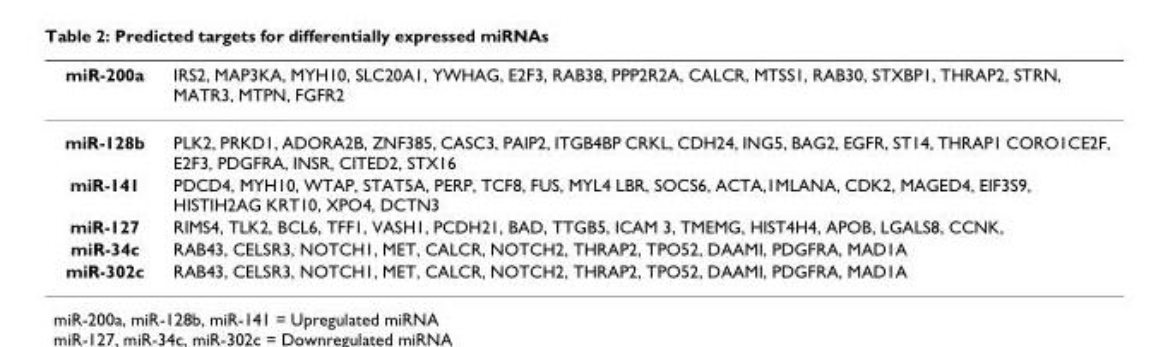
<table><thead><tr><td>miR-200a</td><td>IRS2, MAP3KA, MYH10, SLC20A1, YWHAG, E2F3, RAB38, PPP2R2A, CALCR, MTSS1, RAB30, STXBP1, THRAP2, STRN, MATR3, MTPN, FGFR2</td></tr></thead><tbody><tr><td>miR-128b</td><td>PLK2, PRKD1, ADORA2B, ZNF385, CASC3, PAIP2, ITGB4BP CRKL, CDH24, ING5, BAG2, EGFR, ST14, THRAP1 CORO1CE2F, E2F3, PDGFRA, INSR, CITED2, STX16</td></tr><tr><td>miR-141</td><td>PDCD4, MYH10, WTAP, STAT5A, PERP, TCF8, FUS, MYL4 LBR, SOCS6, ACTA,1MLANA, CDK2, MAGED4, EIF3S9, HISTIH2AG KRT10, XPO4, DCTN3</td></tr><tr><td>miR-127</td><td>RIMS4, TLK2, BCL6, TFF1, VASH1, PCDH21, BAD, TTGB5, ICAM 3, TMEMG, HIST4H4, APOB, LGALS8, CCNK,</td></tr><tr><td>miR-34c</td><td>RAB43, CELSR3, NOTCH1, MET, CALCR, NOTCH2, THRAP2, TPO52, DAAMI, PDGFRA, MAD1A</td></tr><tr><td>miR-302c</td><td>RAB43, CELSR3, NOTCH1, MET, CALCR, NOTCH2, THRAP2, TPO52, DAAMI, PDGFRA, MAD1A</td></tr></tbody></table>